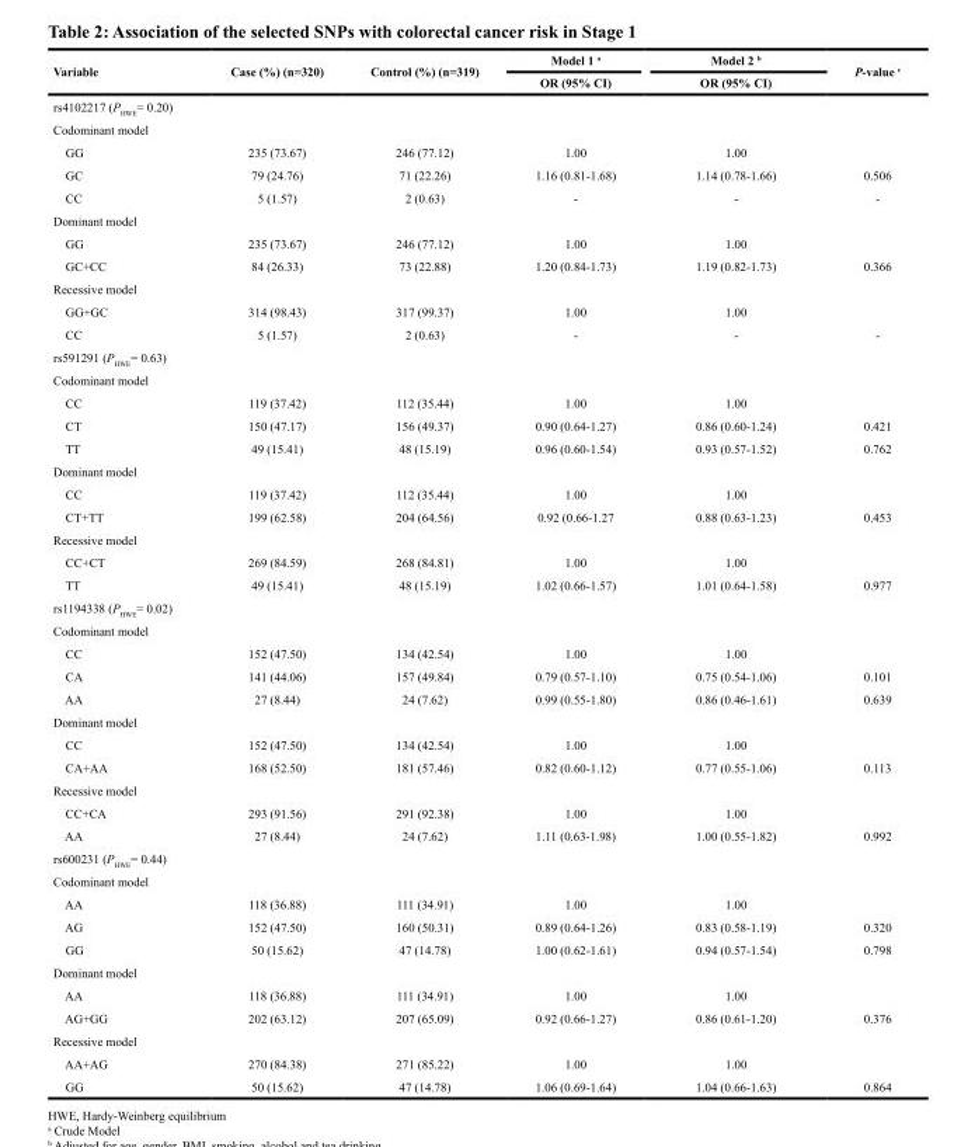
<table><thead><tr><td rowspan="2">Variable</td><td rowspan="2">Case (%) (n=320)</td><td rowspan="2">Control (%) (n=319)</td><td rowspan="2">Model 1 <sup>a</sup> OR (95% CI)</td><td rowspan="2">Model 2 <sup>b</sup> OR (95% CI)</td><td rowspan="2">P-value <sup>c</sup></td></tr><tr></tr></thead><tbody><tr><td colspan="6">rs4102217 (P<sub>HWE</sub>= 0.20)</td></tr><tr><td colspan="6">Codominant model</td></tr><tr><td>GG</td><td>235 (73.67)</td><td>246 (77.12)</td><td>1.00</td><td>1.00</td><td></td></tr><tr><td>GC</td><td>79 (24.76)</td><td>71 (22.26)</td><td>1.16 (0.81-1.68)</td><td>1.14 (0.78-1.66)</td><td>0.506</td></tr><tr><td>CC</td><td>5 (1.57)</td><td>2 (0.63)</td><td>-</td><td>-</td><td>-</td></tr><tr><td colspan="6">Dominant model</td></tr><tr><td>GG</td><td>235 (73.67)</td><td>246 (77.12)</td><td>1.00</td><td>1.00</td><td></td></tr><tr><td>GC+CC</td><td>84 (26.33)</td><td>73 (22.88)</td><td>1.20 (0.84-1.73)</td><td>1.19 (0.82-1.73)</td><td>0.366</td></tr><tr><td colspan="6">Recessive model</td></tr><tr><td>GG+GC</td><td>314 (98.43)</td><td>317 (99.37)</td><td>1.00</td><td>1.00</td><td></td></tr><tr><td>CC</td><td>5 (1.57)</td><td>2 (0.63)</td><td>-</td><td>-</td><td>-</td></tr><tr><td colspan="6">rs591291 (P<sub>HWE</sub>= 0.63)</td></tr><tr><td colspan="6">Codominant model</td></tr><tr><td>CC</td><td>119 (37.42)</td><td>112 (35.44)</td><td>1.00</td><td>1.00</td><td></td></tr><tr><td>CT</td><td>150 (47.17)</td><td>156 (49.37)</td><td>0.90 (0.64-1.27)</td><td>0.86 (0.60-1.24)</td><td>0.421</td></tr><tr><td>TT</td><td>49 (15.41)</td><td>48 (15.19)</td><td>0.96 (0.60-1.54)</td><td>0.93 (0.57-1.52)</td><td>0.762</td></tr><tr><td colspan="6">Dominant model</td></tr><tr><td>CC</td><td>119 (37.42)</td><td>112 (35.44)</td><td>1.00</td><td>1.00</td><td></td></tr><tr><td>CT+TT</td><td>199 (62.58)</td><td>204 (64.56)</td><td>0.92 (0.66-1.27</td><td>0.88 (0.63-1.23)</td><td>0.453</td></tr><tr><td colspan="6">Recessive model</td></tr><tr><td>CC+CT</td><td>269 (84.59)</td><td>268 (84.81)</td><td>1.00</td><td>1.00</td><td></td></tr><tr><td>TT</td><td>49 (15.41)</td><td>48 (15.19)</td><td>1.02 (0.66-1.57)</td><td>1.01 (0.64-1.58)</td><td>0.977</td></tr><tr><td colspan="6">rs1194338 (P<sub>HWE</sub>= 0.02)</td></tr><tr><td colspan="6">Codominant model</td></tr><tr><td>CC</td><td>152 (47.50)</td><td>134 (42.54)</td><td>1.00</td><td>1.00</td><td></td></tr><tr><td>CA</td><td>141 (44.06)</td><td>157 (49.84)</td><td>0.79 (0.57-1.10)</td><td>0.75 (0.54-1.06)</td><td>0.101</td></tr><tr><td>AA</td><td>27 (8.44)</td><td>24 (7.62)</td><td>0.99 (0.55-1.80)</td><td>0.86 (0.46-1.61)</td><td>0.639</td></tr><tr><td colspan="6">Dominant model</td></tr><tr><td>CC</td><td>152 (47.50)</td><td>134 (42.54)</td><td>1.00</td><td>1.00</td><td></td></tr><tr><td>CA+AA</td><td>168 (52.50)</td><td>181 (57.46)</td><td>0.82 (0.60-1.12)</td><td>0.77 (0.55-1.06)</td><td>0.113</td></tr><tr><td colspan="6">Recessive model</td></tr><tr><td>CC+CA</td><td>293 (91.56)</td><td>291 (92.38)</td><td>1.00</td><td>1.00</td><td></td></tr><tr><td>AA</td><td>27 (8.44)</td><td>24 (7.62)</td><td>1.11 (0.63-1.98)</td><td>1.00 (0.55-1.82)</td><td>0.992</td></tr><tr><td colspan="6">rs600231 (P<sub>HWE</sub>= 0.44)</td></tr><tr><td colspan="6">Codominant model</td></tr><tr><td>AA</td><td>118 (36.88)</td><td>111 (34.91)</td><td>1.00</td><td>1.00</td><td></td></tr><tr><td>AG</td><td>152 (47.50)</td><td>160 (50.31)</td><td>0.89 (0.64-1.26)</td><td>0.83 (0.58-1.19)</td><td>0.320</td></tr><tr><td>GG</td><td>50 (15.62)</td><td>47 (14.78)</td><td>1.00 (0.62-1.61)</td><td>0.94 (0.57-1.54)</td><td>0.798</td></tr><tr><td colspan="6">Dominant model</td></tr><tr><td>AA</td><td>118 (36.88)</td><td>111 (34.91)</td><td>1.00</td><td>1.00</td><td></td></tr><tr><td>AG+GG</td><td>202 (63.12)</td><td>207 (65.09)</td><td>0.92 (0.66-1.27)</td><td>0.86 (0.61-1.20)</td><td>0.376</td></tr><tr><td colspan="6">Recessive model</td></tr><tr><td>AA+AG</td><td>270 (84.38)</td><td>271 (85.22)</td><td>1.00</td><td>1.00</td><td></td></tr><tr><td>GG</td><td>50 (15.62)</td><td>47 (14.78)</td><td>1.06 (0.69-1.64)</td><td>1.04 (0.66-1.63)</td><td>0.864</td></tr></tbody></table>